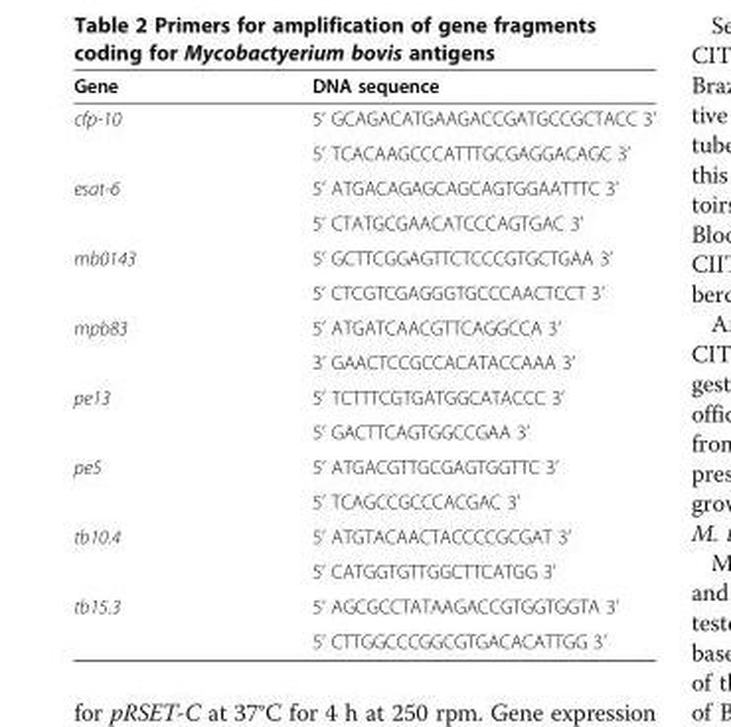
<table><thead><tr><td>Gene</td><td>DNA sequence</td></tr></thead><tbody><tr><td rowspan="2">cfp-10</td><td>5’ GCAGACATGAAGACCGATGCCGCTACC 3’</td></tr><tr><td>5’ TCACAAGCCCATTTGCGAGGACAGC 3’</td></tr><tr><td rowspan="2">esat-6</td><td>5’ ATGACAGAGCAGCAGTGGAATTTC 3’</td></tr><tr><td>5’ CTATGCGAACATCCCAGTGAC 3’</td></tr><tr><td rowspan="2">mb0143</td><td>5’ GCTTCGGAGTTCTCCCGTGCTGAA 3’</td></tr><tr><td>5’ CTCGTCGAGGGTGCCCAACTCCT 3’</td></tr><tr><td rowspan="2">mpb83</td><td>5’ ATGATCAACGTTCAGGCCA 3’</td></tr><tr><td>3’ GAACTCCGCCACATACCAAA 3’</td></tr><tr><td rowspan="2">pe13</td><td>5’ TCTTTCGTGATGGCATACCC 3’</td></tr><tr><td>5’ GACTTCAGTGGCCGAA 3’</td></tr><tr><td rowspan="2">pe5</td><td>5’ ATGACGTTGCGAGTGGTTC 3’</td></tr><tr><td>5’ TCAGCCGCCCACGAC 3’</td></tr><tr><td rowspan="2">tb10.4</td><td>5’ ATGTACAACTACCCCGCGAT 3’</td></tr><tr><td>5’ CATGGTGTTGGCTTCATGG 3’</td></tr><tr><td rowspan="2">tb15.3</td><td>5’ AGCGCCTATAAGACCGTGGTGGTA 3’</td></tr><tr><td>5’ CTTGGCCCGGCGTGACACATTGG 3’</td></tr></tbody></table>